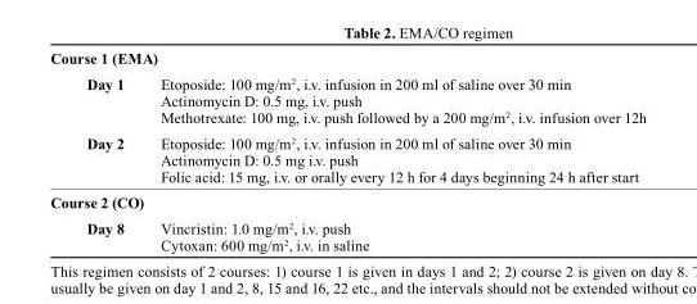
<table><tbody><tr><td colspan="2">course 1 (EMA)</td></tr><tr><td rowspan="3">Day 1</td><td>Etoposide: 100 mg/m<sup>2</sup>, i.v. infusion in 200 ml of saline over 30 min</td></tr><tr><td>Actinomycin D: 0.5 mg, i.v. push</td></tr><tr><td>Methotrexate: 100 mg, i.v. push followed by a 200 mg/m2, i.v. infusion over 12h</td></tr><tr><td rowspan="3">Day 2</td><td>Etoposide: 100 mg/m<sup>2</sup>, i.v. infusion in 200 ml of saline over 30 min</td></tr><tr><td>Actinomycin D: 0.5 mg i.v. push</td></tr><tr><td>Folic acid: 15 mg, i.v. or orally every 12 h for 4 days beginning 24 h after start</td></tr><tr><td colspan="2">course 2 (cO)</td></tr><tr><td rowspan="2">Day 8</td><td>Vincristin: 1.0 mg/m<sup>2</sup>, i.v. push</td></tr><tr><td>Cytoxan: 600 mg/m<sup>2</sup>, i.v. in saline</td></tr></tbody></table>